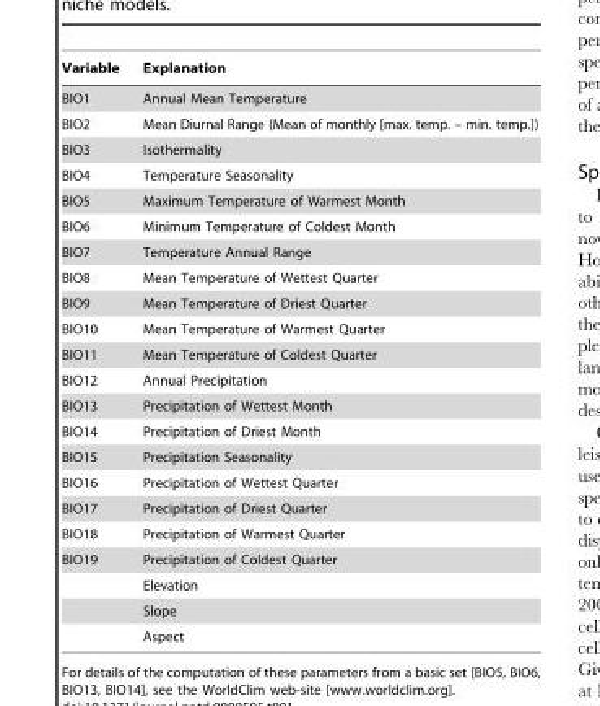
<table><thead><tr><td>Variable</td><td>Explanation</td></tr></thead><tbody><tr><td>BIO1</td><td>Annual Mean Temperature</td></tr><tr><td>BIO2</td><td>Mean Diurnal Range (Mean of monthly [max. temp. – min. temp.])</td></tr><tr><td>BIO3</td><td>Isothermality</td></tr><tr><td>BIO4</td><td>Temperature Seasonality</td></tr><tr><td>BIO5</td><td>Maximum Temperature of Warmest Month</td></tr><tr><td>BIO6</td><td>Minimum Temperature of Coldest Month</td></tr><tr><td>BIO7</td><td>Temperature Annual Range</td></tr><tr><td>BIO8</td><td>Mean Temperature of Wettest Quarter</td></tr><tr><td>BIO9</td><td>Mean Temperature of Driest Quarter</td></tr><tr><td>BIO10</td><td>Mean Temperature of Warmest Quarter</td></tr><tr><td>BIO11</td><td>Mean Temperature of Coldest Quarter</td></tr><tr><td>BIO12</td><td>Annual Precipitation</td></tr><tr><td>BIO13</td><td>Precipitation of Wettest Month</td></tr><tr><td>BIO14</td><td>Precipitation of Driest Month</td></tr><tr><td>BIO15</td><td>Precipitation Seasonality</td></tr><tr><td>BIO16</td><td>Precipitation of Wettest Quarter</td></tr><tr><td>BIO17</td><td>Precipitation of Driest Quarter</td></tr><tr><td>BIO18</td><td>Precipitation of Warmest Quarter</td></tr><tr><td rowspan="4">BIO19</td><td>Precipitation of Coldest Quarter</td></tr><tr><td>Elevation</td></tr><tr><td>Slope</td></tr><tr><td>Aspect</td></tr></tbody></table>